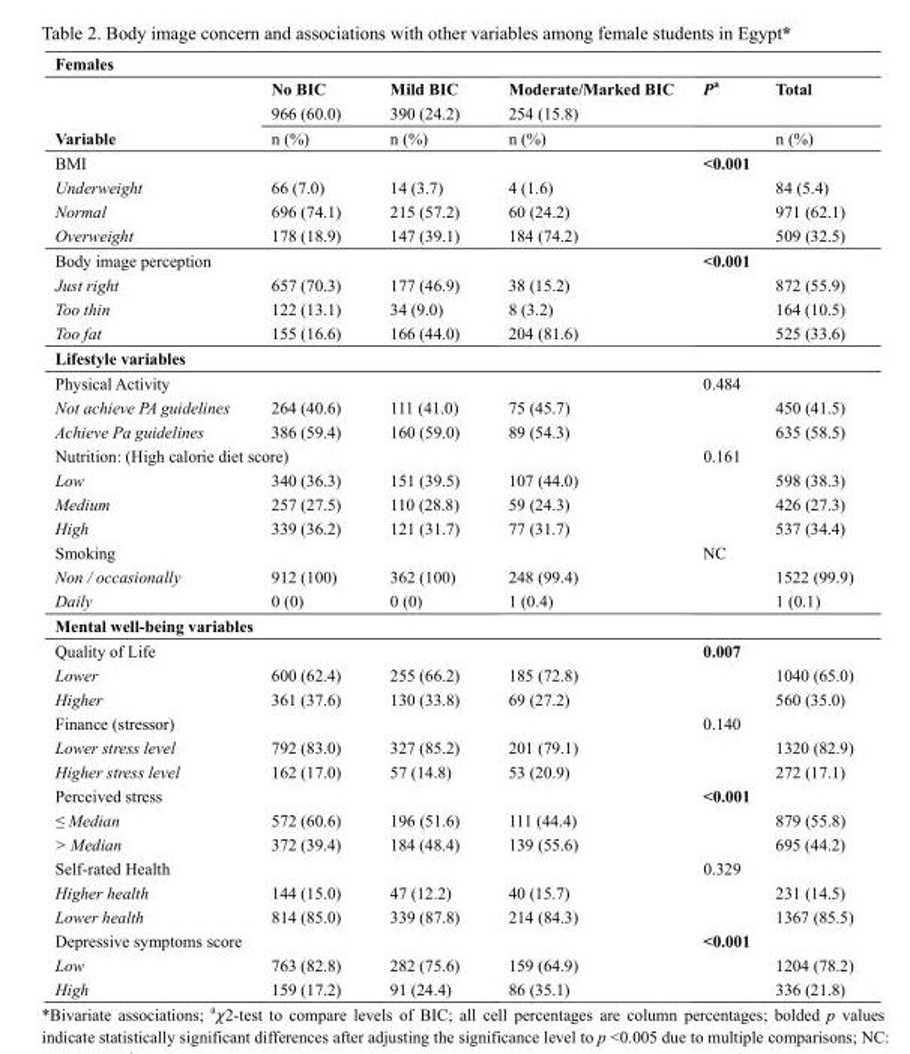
<table><thead><tr><td colspan="6">Females</td></tr><tr><td></td><td>No BIC</td><td>Mild BIC</td><td>Moderate/Marked BIC</td><td>P<sup>a</sup></td><td>Total</td></tr></thead><tbody><tr><td></td><td>966 (60.0)</td><td>390 (24.2)</td><td>254 (15.8)</td><td></td><td></td></tr><tr><td>Variable</td><td>n (%)</td><td>n (%)</td><td>n (%)</td><td></td><td>n (%)</td></tr><tr><td colspan="4">BMI</td><td>&lt;0.001</td><td></td></tr><tr><td>Underweight</td><td>66 (7.0)</td><td>14 (3.7)</td><td>4 (1.6)</td><td></td><td>84 (5.4)</td></tr><tr><td>Normal</td><td>696 (74.1)</td><td>215 (57.2)</td><td>60 (24.2)</td><td></td><td>971 (62.1)</td></tr><tr><td>Overweight</td><td>178 (18.9)</td><td>147 (39.1)</td><td>184 (74.2)</td><td></td><td>509 (32.5)</td></tr><tr><td colspan="4">Body image perception</td><td>&lt;0.001</td><td></td></tr><tr><td>Just right</td><td>657 (70.3)</td><td>177 (46.9)</td><td>38 (15.2)</td><td></td><td>872 (55.9)</td></tr><tr><td>Too thin</td><td>122 (13.1)</td><td>34 (9.0)</td><td>8 (3.2)</td><td></td><td>164 (10.5)</td></tr><tr><td>Too fat</td><td>155 (16.6)</td><td>166 (44.0)</td><td>204 (81.6)</td><td></td><td>525 (33.6)</td></tr><tr><td colspan="6">Lifestyle variables</td></tr><tr><td colspan="4">Physical Activity</td><td>0.484</td><td></td></tr><tr><td>Not achieve PA guidelines</td><td>264 (40.6)</td><td>111 (41.0)</td><td>75 (45.7)</td><td></td><td>450 (41.5)</td></tr><tr><td>Achieve Pa guidelines</td><td>386 (59.4)</td><td>160 (59.0)</td><td>89 (54.3)</td><td></td><td>635 (58.5)</td></tr><tr><td colspan="4">Nutrition: (High calorie diet score)</td><td>0.161</td><td></td></tr><tr><td>Low</td><td>340 (36.3)</td><td>151 (39.5)</td><td>107 (44.0)</td><td></td><td>598 (38.3)</td></tr><tr><td>Medium</td><td>257 (27.5)</td><td>110 (28.8)</td><td>59 (24.3)</td><td></td><td>426 (27.3)</td></tr><tr><td>High</td><td>339 (36.2)</td><td>121 (31.7)</td><td>77 (31.7)</td><td></td><td>537 (34.4)</td></tr><tr><td colspan="4">Smoking</td><td>NC</td><td></td></tr><tr><td>Non / occasionally</td><td>912 (100)</td><td>362 (100)</td><td>248 (99.4)</td><td></td><td>1522 (99.9)</td></tr><tr><td>Daily</td><td>0 (0)</td><td>0 (0)</td><td>1 (0.4)</td><td></td><td>1 (0.1)</td></tr><tr><td colspan="6">Mental well-being variables</td></tr><tr><td colspan="4">Quality of Life</td><td>0.007</td><td></td></tr><tr><td>Lower</td><td>600 (62.4)</td><td>255 (66.2)</td><td>185 (72.8)</td><td></td><td>1040 (65.0)</td></tr><tr><td>Higher</td><td>361 (37.6)</td><td>130 (33.8)</td><td>69 (27.2)</td><td></td><td>560 (35.0)</td></tr><tr><td colspan="4">Finance (stressor)</td><td>0.140</td><td></td></tr><tr><td>Lower stress level</td><td>792 (83.0)</td><td>327 (85.2)</td><td>201 (79.1)</td><td></td><td>1320 (82.9)</td></tr><tr><td>Higher stress level</td><td>162 (17.0)</td><td>57 (14.8)</td><td>53 (20.9)</td><td></td><td>272 (17.1)</td></tr><tr><td colspan="4">Perceived stress</td><td>&lt;0.001</td><td></td></tr><tr><td>≤ Median</td><td>572 (60.6)</td><td>196 (51.6)</td><td>111 (44.4)</td><td></td><td>879 (55.8)</td></tr><tr><td>&gt; Median</td><td>372 (39.4)</td><td>184 (48.4)</td><td>139 (55.6)</td><td></td><td>695 (44.2)</td></tr><tr><td colspan="4">Self-rated Health</td><td>0.329</td><td></td></tr><tr><td>Higher health</td><td>144 (15.0)</td><td>47 (12.2)</td><td>40 (15.7)</td><td></td><td>231 (14.5)</td></tr><tr><td>Lower health</td><td>814 (85.0)</td><td>339 (87.8)</td><td>214 (84.3)</td><td></td><td>1367 (85.5)</td></tr><tr><td colspan="4">Depressive symptoms score</td><td>&lt;0.001</td><td></td></tr><tr><td>Low</td><td>763 (82.8)</td><td>282 (75.6)</td><td>159 (64.9)</td><td></td><td>1204 (78.2)</td></tr><tr><td>High</td><td>159 (17.2)</td><td>91 (24.4)</td><td>86 (35.1)</td><td></td><td>336 (21.8)</td></tr></tbody></table>